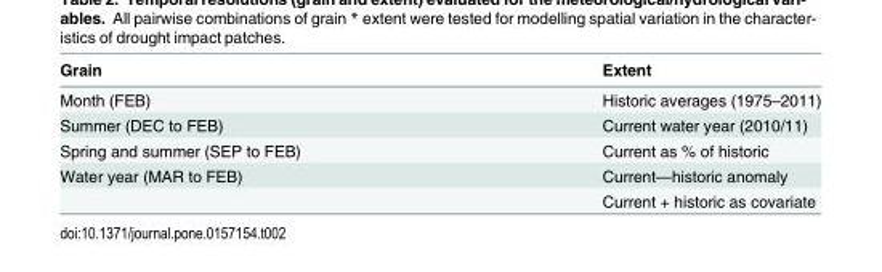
<table><thead><tr><td>Grain</td><td>Extent</td></tr></thead><tbody><tr><td>Month (FEB)</td><td>Historic averages (1975–2011)</td></tr><tr><td>Summer (DEC to FEB)</td><td>Current water year (2010/11)</td></tr><tr><td>Spring and summer (SEP to FEB)</td><td>Current as % of historic</td></tr><tr><td rowspan="2">Water year (MAR to FEB)</td><td>Current—historic anomaly</td></tr><tr><td>Current + historic as covariate</td></tr></tbody></table>